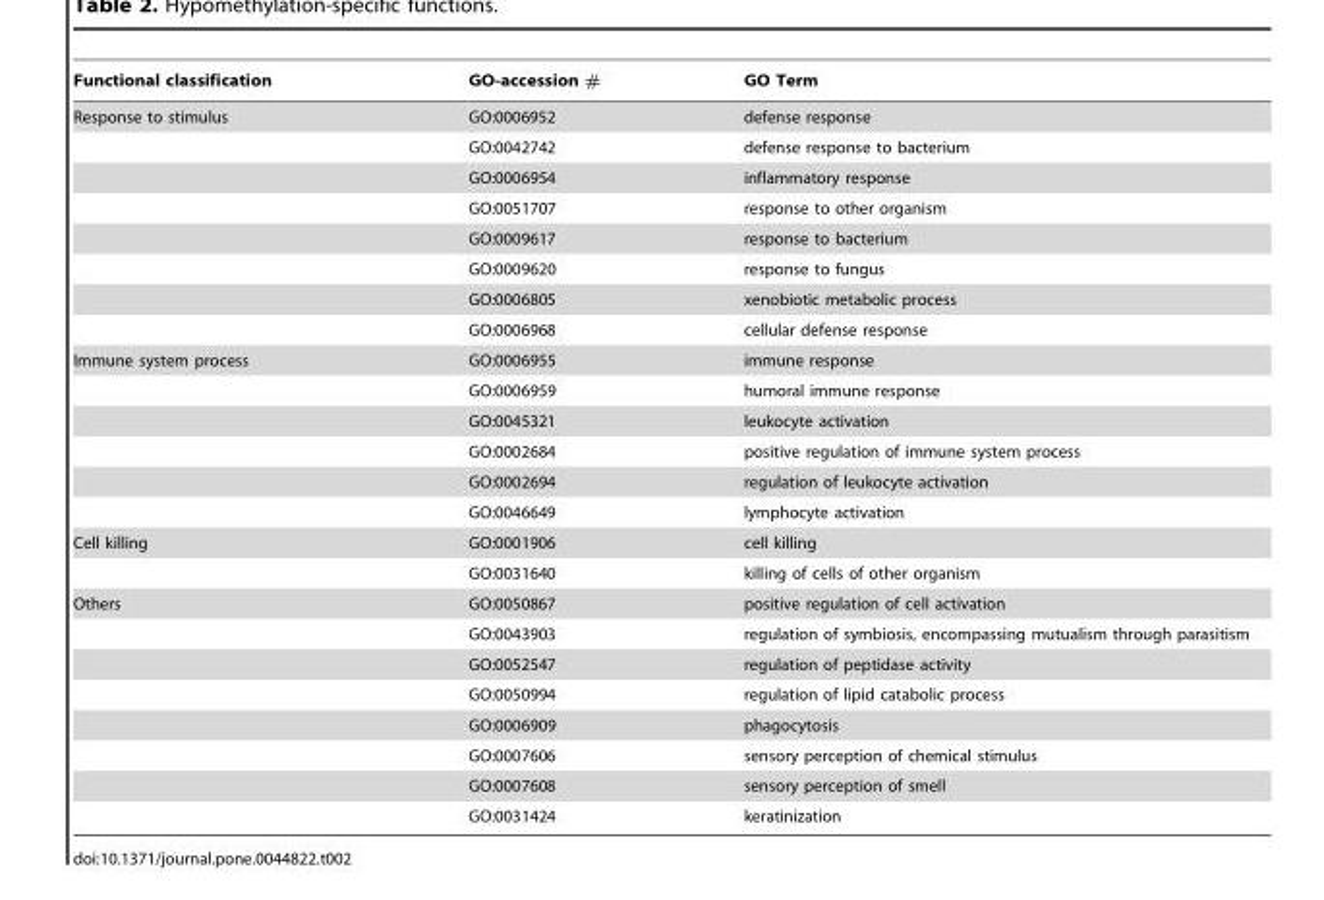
<table><thead><tr><td>Functional classification</td><td>GO-accession #</td><td>GO Term</td></tr></thead><tbody><tr><td rowspan="8">Response to stimulus</td><td>GO:0006952</td><td>defense response</td></tr><tr><td>GO:0042742</td><td>defense response to bacterium</td></tr><tr><td>GO:0006954</td><td>inflammatory response</td></tr><tr><td>GO:0051707</td><td>response to other organism</td></tr><tr><td>GO:0009617</td><td>response to bacterium</td></tr><tr><td>GO:0009620</td><td>response to fungus</td></tr><tr><td>GO:0006805</td><td>xenobiotic metabolic process</td></tr><tr><td>GO:0006968</td><td>cellular defense response</td></tr><tr><td rowspan="6">Immune system process</td><td>GO:0006955</td><td>immune response</td></tr><tr><td>GO:0006959</td><td>humoral immune response</td></tr><tr><td>GO:0045321</td><td>leukocyte activation</td></tr><tr><td>GO:0002684</td><td>positive regulation of immune system process</td></tr><tr><td>GO:0002694</td><td>regulation of leukocyte activation</td></tr><tr><td>GO:0046649</td><td>lymphocyte activation</td></tr><tr><td rowspan="2">Cell killing</td><td>GO:0001906</td><td>cell killing</td></tr><tr><td>GO:0031640</td><td>killing of cells of other organism</td></tr><tr><td rowspan="8">Others</td><td>GO:0050867</td><td>positive regulation of cell activation</td></tr><tr><td>GO:0043903</td><td>regulation of symbiosis, encompassing mutualism through parasitism</td></tr><tr><td>GO:0052547</td><td>regulation of peptidase activity</td></tr><tr><td>GO:0050994</td><td>regulation of lipid catabolic process</td></tr><tr><td>GO:0006909</td><td>phagocytosis</td></tr><tr><td>GO:0007606</td><td>sensory perception of chemical stimulus</td></tr><tr><td>GO:0007608</td><td>sensory perception of smell</td></tr><tr><td>GO:0031424</td><td>keratinization</td></tr></tbody></table>